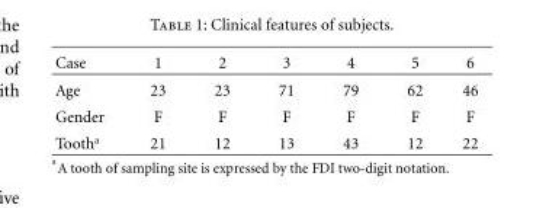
<table><thead><tr><td>Case</td><td>1</td><td>2</td><td>3</td><td>4</td><td>5</td><td>6</td></tr></thead><tbody><tr><td>Age</td><td>23</td><td>23</td><td>71</td><td>79</td><td>62</td><td>46</td></tr><tr><td>Gender</td><td>F</td><td>F</td><td>F</td><td>F</td><td>F</td><td>F</td></tr><tr><td>Tooth<sup>a</sup></td><td>21</td><td>12</td><td>13</td><td>43</td><td>12</td><td>22</td></tr></tbody></table>